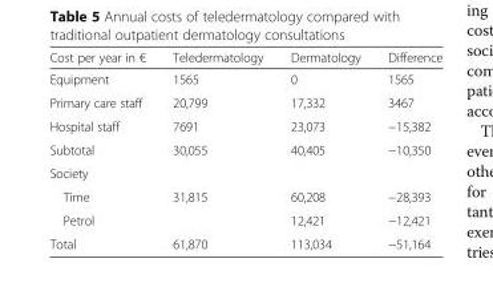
<table><thead><tr><td>Cost per year in €</td><td>Teledermatology</td><td>Dermatology</td><td>Difference</td></tr></thead><tbody><tr><td>Equipment</td><td>1565</td><td>0</td><td>1565</td></tr><tr><td>Primary care staff</td><td>20,799</td><td>17,332</td><td>3467</td></tr><tr><td>Hospital staff</td><td>7691</td><td>23,073</td><td>−15,382</td></tr><tr><td>Subtotal</td><td>30,055</td><td>40,405</td><td>−10,350</td></tr><tr><td colspan="4">Society</td></tr><tr><td>Time</td><td>31,815</td><td>60,208</td><td>−28,393</td></tr><tr><td>Petrol</td><td></td><td>12,421</td><td>−12,421</td></tr><tr><td>Total</td><td>61,870</td><td>113,034</td><td>−51,164</td></tr></tbody></table>